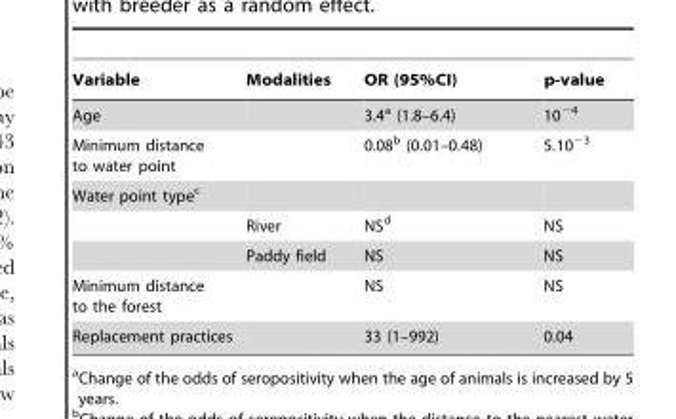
<table><thead><tr><td>Variable</td><td>Modalities</td><td>OR (95%CI)</td><td>p-value</td></tr></thead><tbody><tr><td>Age</td><td></td><td>3.4<sup>a</sup> (1.8–6.4)</td><td>10<sup>−4</sup></td></tr><tr><td>Minimum distance to water point</td><td></td><td>0.08<sup>b</sup> (0.01–0.48)</td><td>5.10<sup>−3</sup></td></tr><tr><td colspan="4">Water point type<sup>c</sup></td></tr><tr><td></td><td>River</td><td>NS<sup>d</sup></td><td>NS</td></tr><tr><td></td><td>Paddy field</td><td>NS</td><td>NS</td></tr><tr><td>Minimum distance to the forest</td><td></td><td>NS</td><td>NS</td></tr><tr><td>Replacement practices</td><td></td><td>33 (1–992)</td><td>0.04</td></tr></tbody></table>